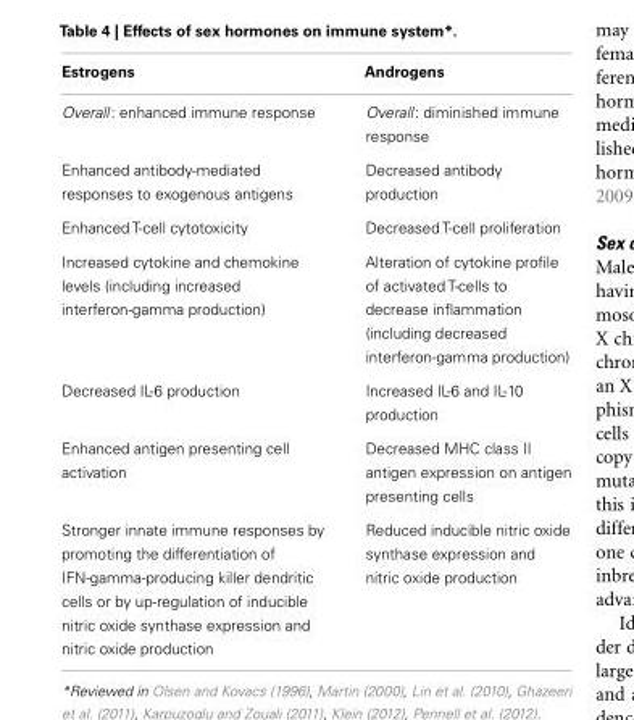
<table><thead><tr><td>Estrogens</td><td>Androgens</td></tr></thead><tbody><tr><td>Overall: enhanced immune response</td><td>Overall: diminished immune response</td></tr><tr><td>Enhanced antibody-mediated responses to exogenous antigens</td><td>Decreased antibody production</td></tr><tr><td>Enhanced T-cell cytotoxicity</td><td>Decreased T-cell proliferation</td></tr><tr><td>Increased cytokine and chemokine levels (including increased interferon-gamma production)</td><td>Alteration of cytokine profile of activated T-cells to decrease inflammation (including decreased interferon-gamma production)</td></tr><tr><td>Decreased IL-6 production</td><td>Increased IL-6 and IL-10 production</td></tr><tr><td>Enhanced antigen presenting cell activation</td><td>Decreased MHC class II antigen expression on antigen presenting cells</td></tr><tr><td>Stronger innate immune responses by promoting the differentiation of IFN-gamma-producing killer dendritic cells or by up-regulation of inducible nitric oxide synthase expression and nitric oxide production</td><td>Reduced inducible nitric oxide synthase expression and nitric oxide production</td></tr></tbody></table>